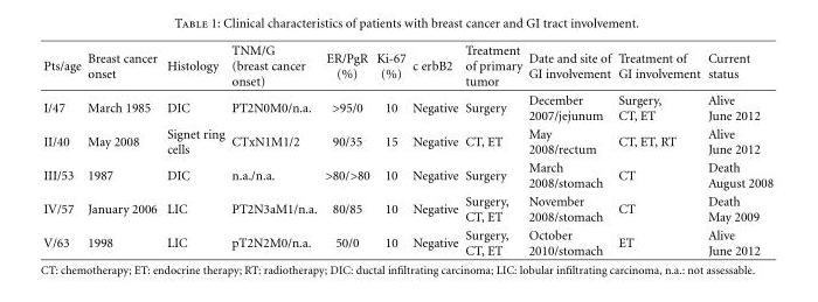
<table><thead><tr><td>Pts/age</td><td>Breast cancer onset</td><td>Histology</td><td>TNM/G (breast cancer onset)</td><td>ER/PgR (%)</td><td>Ki-67 (%)</td><td>c erbB2</td><td>Treatment of primary tumor</td><td>Date and site of GI involvement</td><td>Treatment of GI involvement</td><td>Current status</td></tr></thead><tbody><tr><td>I/47</td><td>March 1985</td><td>DIC</td><td>PT2N0M0/n.a.</td><td>&gt;95/0</td><td>10</td><td>Negative</td><td>Surgery</td><td>December 2007/jejunum</td><td>Surgery, CT, ET</td><td>Alive June 2012</td></tr><tr><td>II/40</td><td>May 2008</td><td>Signet ring cells</td><td>CTxN1M1/2</td><td>90/35</td><td>15</td><td>Negative</td><td>CT, ET</td><td>May 2008/rectum</td><td>CT, ET, RT</td><td>Alive June 2012</td></tr><tr><td>III/53</td><td>1987</td><td>DIC</td><td>n.a./n.a.</td><td>&gt;80/&gt;80</td><td>10</td><td>Negative</td><td>Surgery</td><td>March 2008/stomach</td><td>CT</td><td>Death August 2008</td></tr><tr><td>IV/57</td><td>January 2006</td><td>LIC</td><td>PT2N3aM1/n.a.</td><td>80/85</td><td>10</td><td>Negative</td><td>Surgery, CT, ET</td><td>November 2008/stomach</td><td>CT</td><td>Death May 2009</td></tr><tr><td>V/63</td><td>1998</td><td>LIC</td><td>pT2N2M0/n.a.</td><td>50/0</td><td>10</td><td>Negative</td><td>Surgery, CT, ET</td><td>October 2010/stomach</td><td>ET</td><td>Alive June 2012</td></tr></tbody></table>